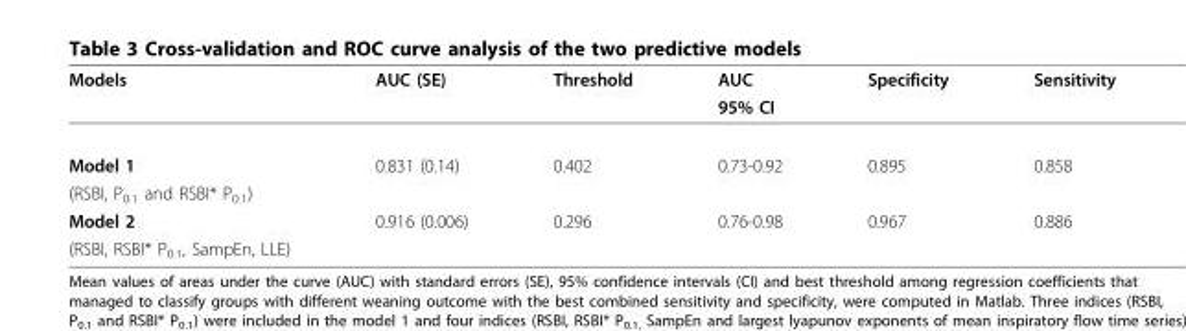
<table><thead><tr><td rowspan="2">Models</td><td rowspan="2">AUC (SE)</td><td rowspan="2">Threshold</td><td rowspan="2">AUC 95% CI</td><td rowspan="2">Specificity</td><td rowspan="2">Sensitivity</td></tr><tr></tr></thead><tbody><tr><td>Model 1</td><td>0.831 (0.14)</td><td>0.402</td><td>0.73-0.92</td><td>0.895</td><td>0.858</td></tr><tr><td colspan="6">(RSBI, P<sub>0.1</sub> and RSBI* P<sub>0.1</sub>)</td></tr><tr><td>Model 2</td><td>0.916 (0.006)</td><td>0.296</td><td>0.76-0.98</td><td>0.967</td><td>0.886</td></tr><tr><td>(RSBI, RSBI* P<sub>0.1</sub>, SampEn, LLE)</td><td></td><td></td><td></td><td></td><td></td></tr></tbody></table>